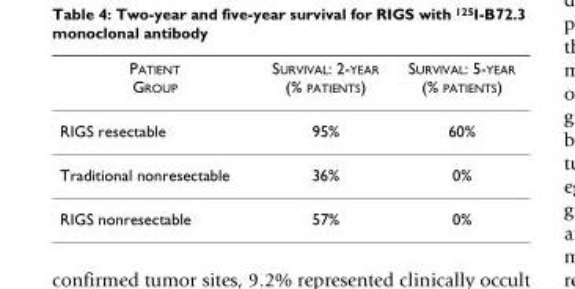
<table><thead><tr><td>PATIENT GROUP</td><td>SURVIVAL: 2-YEAR (% PATIENTS)</td><td>SURVIVAL: 5-YEAR (% PATIENTS)</td></tr></thead><tbody><tr><td>RIGS resectable</td><td>95%</td><td>60%</td></tr><tr><td>Traditional nonresectable</td><td>36%</td><td>0%</td></tr><tr><td>RIGS nonresectable</td><td>57%</td><td>0%</td></tr></tbody></table>